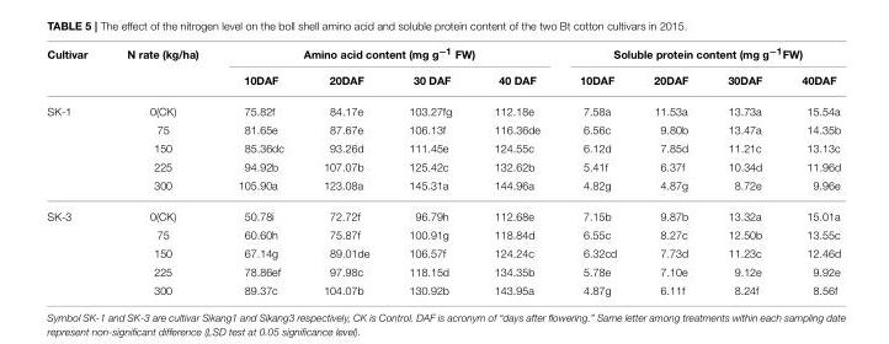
<table><thead><tr><td rowspan="2">Cultivar</td><td rowspan="2">N rate (kg/ha)</td><td colspan="4">Amino acid content (mg g<sup>−1</sup> FW)</td><td colspan="4">Soluble protein content (mg g<sup>−1</sup>FW)</td></tr><tr><td>10DAF</td><td>20DAF</td><td>30 DAF</td><td>40 DAF</td><td>10DAF</td><td>20DAF</td><td>30DAF</td><td>40DAF</td></tr></thead><tbody><tr><td rowspan="5">SK-1</td><td>0(CK)</td><td>75.82f</td><td>84.17e</td><td>103.27fg</td><td>112.18e</td><td>7.58a</td><td>11.53a</td><td>13.73a</td><td>15.54a</td></tr><tr><td>75</td><td>81.65e</td><td>87.67e</td><td>106.13f</td><td>116.36de</td><td>6.56c</td><td>9.80b</td><td>13.47a</td><td>14.35b</td></tr><tr><td>150</td><td>85.36dc</td><td>93.26d</td><td>111.45e</td><td>124.55c</td><td>6.12d</td><td>7.85d</td><td>11.21c</td><td>13.13c</td></tr><tr><td>225</td><td>94.92b</td><td>107.07b</td><td>125.42c</td><td>132.62b</td><td>5.41f</td><td>6.37f</td><td>10.34d</td><td>11.96d</td></tr><tr><td>300</td><td>105.90a</td><td>123.08a</td><td>145.31a</td><td>144.96a</td><td>4.82g</td><td>4.87g</td><td>8.72e</td><td>9.96e</td></tr><tr><td rowspan="5">SK-3</td><td>0(CK)</td><td>50.78i</td><td>72.72f</td><td>96.79h</td><td>112.68e</td><td>7.15b</td><td>9.87b</td><td>13.32a</td><td>15.01a</td></tr><tr><td>75</td><td>60.60h</td><td>75.87f</td><td>100.91g</td><td>118.84d</td><td>6.55c</td><td>8.27c</td><td>12.50b</td><td>13.55c</td></tr><tr><td>150</td><td>67.14g</td><td>89.01de</td><td>106.57f</td><td>124.24c</td><td>6.32cd</td><td>7.73d</td><td>11.23c</td><td>12.46d</td></tr><tr><td>225</td><td>78.86ef</td><td>97.98c</td><td>118.15d</td><td>134.35b</td><td>5.78e</td><td>7.10e</td><td>9.12e</td><td>9.92e</td></tr><tr><td>300</td><td>89.37c</td><td>104.07b</td><td>130.92b</td><td>143.95a</td><td>4.87g</td><td>6.11f</td><td>8.24f</td><td>8.56f</td></tr></tbody></table>